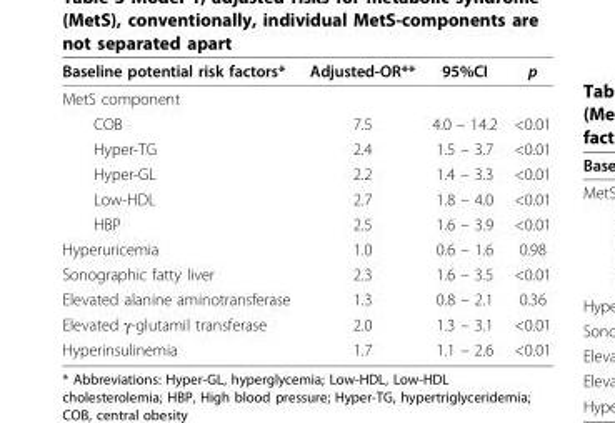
<table><thead><tr><td>Baseline potential risk factors*</td><td>Adjusted-OR**</td><td>95%CI</td><td>p</td></tr></thead><tbody><tr><td colspan="4">MetS component</td></tr><tr><td>COB</td><td>7.5</td><td>4.0 – 14.2</td><td>&lt;0.01</td></tr><tr><td>Hyper-TG</td><td>2.4</td><td>1.5 – 3.7</td><td>&lt;0.01</td></tr><tr><td>Hyper-GL</td><td>2.2</td><td>1.4 – 3.3</td><td>&lt;0.01</td></tr><tr><td>Low-HDL</td><td>2.7</td><td>1.8 – 4.0</td><td>&lt;0.01</td></tr><tr><td>HBP</td><td>2.5</td><td>1.6 – 3.9</td><td>&lt;0.01</td></tr><tr><td>Hyperuricemia</td><td>1.0</td><td>0.6 – 1.6</td><td>0.98</td></tr><tr><td>Sonographic fatty liver</td><td>2.3</td><td>1.6 – 3.5</td><td>&lt;0.01</td></tr><tr><td>Elevated alanine aminotransferase</td><td>1.3</td><td>0.8 – 2.1</td><td>0.36</td></tr><tr><td>Elevated γ-glutamil transferase</td><td>2.0</td><td>1.3 – 3.1</td><td>&lt;0.01</td></tr><tr><td>Hyperinsulinemia</td><td>1.7</td><td>1.1 – 2.6</td><td>&lt;0.01</td></tr></tbody></table>